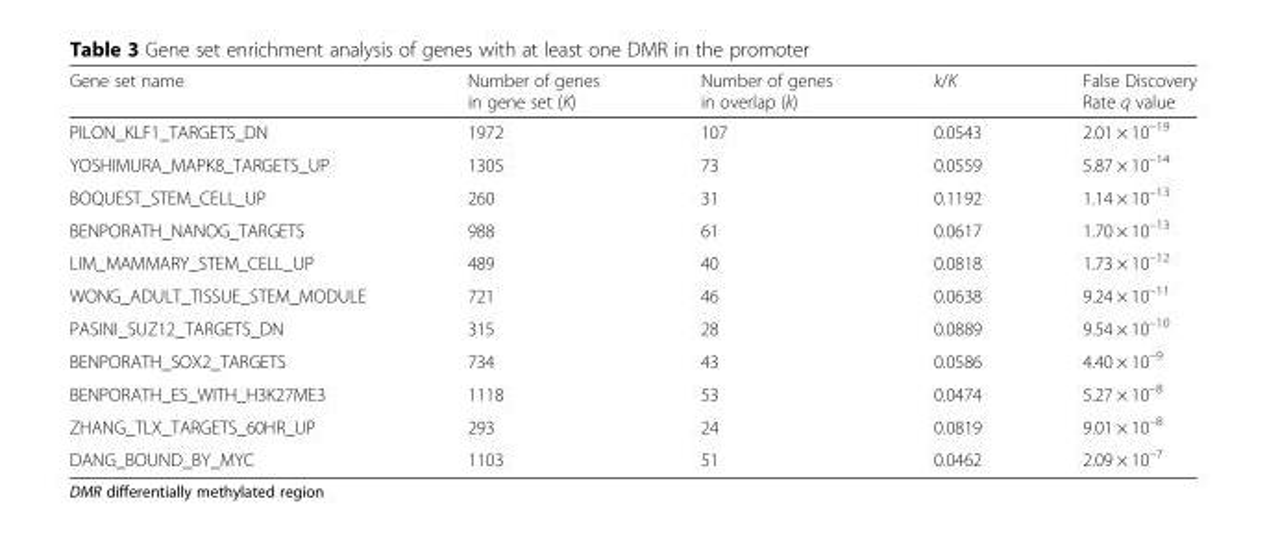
<table><thead><tr><td>Gene set name</td><td>Number of genes in gene set (K)</td><td>Number of genes in overlap (k)</td><td>k/K</td><td>False Discovery Rate q value</td></tr></thead><tbody><tr><td>PILON_KLF1_TARGETS_DN</td><td>1972</td><td>107</td><td>0.0543</td><td>2.01 × 10<sup>–19</sup></td></tr><tr><td>YOSHIMURA_MAPK8_TARGETS_UP</td><td>1305</td><td>73</td><td>0.0559</td><td>5.87 × 10<sup>–14</sup></td></tr><tr><td>BOQUEST_STEM_CELL_UP</td><td>260</td><td>31</td><td>0.1192</td><td>1.14 × 10<sup>–13</sup></td></tr><tr><td>BENPORATH_NANOG_TARGETS</td><td>988</td><td>61</td><td>0.0617</td><td>1.70 × 10<sup>–13</sup></td></tr><tr><td>LIM_MAMMARY_STEM_CELL_UP</td><td>489</td><td>40</td><td>0.0818</td><td>1.73 × 10<sup>–12</sup></td></tr><tr><td>WONG_ADULT_TISSUE_STEM_MODULE</td><td>721</td><td>46</td><td>0.0638</td><td>9.24 × 10<sup>–11</sup></td></tr><tr><td>PASINI_SUZ12_TARGETS_DN</td><td>315</td><td>28</td><td>0.0889</td><td>9.54 × 10<sup>–10</sup></td></tr><tr><td>BENPORATH_SOX2_TARGETS</td><td>734</td><td>43</td><td>0.0586</td><td>4.40 × 10<sup>–9</sup></td></tr><tr><td>BENPORATH_ES_WITH_H3K27ME3</td><td>1118</td><td>53</td><td>0.0474</td><td>5.27 × 10<sup>–8</sup></td></tr><tr><td>ZHANG_TLX_TARGETS_60HR_UP</td><td>293</td><td>24</td><td>0.0819</td><td>9.01 × 10<sup>–8</sup></td></tr><tr><td>DANG_BOUND_BY_MYC</td><td>1103</td><td>51</td><td>0.0462</td><td>2.09 × 10<sup>–7</sup></td></tr></tbody></table>